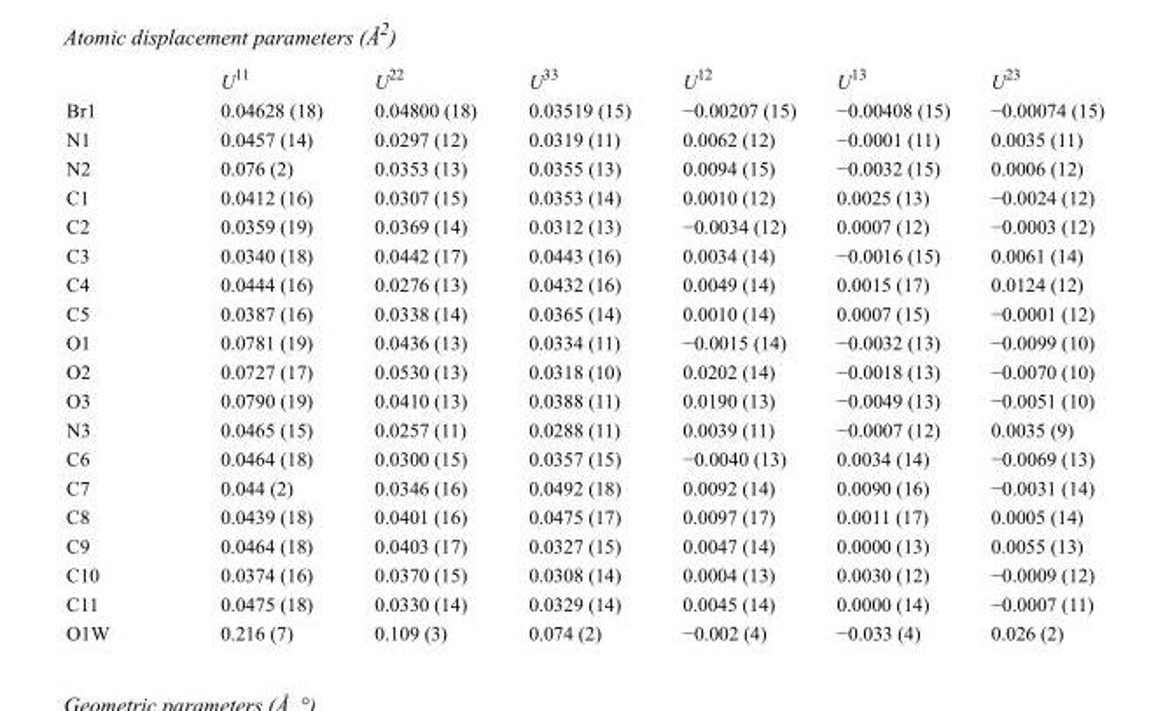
<table><thead><tr><td></td><td>U<sup>11</sup></td><td>U<sup>22</sup></td><td>U<sup>33</sup></td><td>U<sup>12</sup></td><td>U<sup>13</sup></td><td>U<sup>23</sup></td></tr></thead><tbody><tr><td>Br1</td><td>0.04628 (18)</td><td>0.04800 (18)</td><td>0.03519 (15)</td><td>−0.00207 (15)</td><td>−0.00408 (15)</td><td>−0.00074 (15)</td></tr><tr><td>N1</td><td>0.0457 (14)</td><td>0.0297 (12)</td><td>0.0319 (11)</td><td>0.0062 (12)</td><td>−0.0001 (11)</td><td>0.0035 (11)</td></tr><tr><td>N2</td><td>0.076 (2)</td><td>0.0353 (13)</td><td>0.0355 (13)</td><td>0.0094 (15)</td><td>−0.0032 (15)</td><td>0.0006 (12)</td></tr><tr><td>C1</td><td>0.0412 (16)</td><td>0.0307 (15)</td><td>0.0353 (14)</td><td>0.0010 (12)</td><td>0.0025 (13)</td><td>−0.0024 (12)</td></tr><tr><td>C2</td><td>0.0359 (19)</td><td>0.0369 (14)</td><td>0.0312 (13)</td><td>−0.0034 (12)</td><td>0.0007 (12)</td><td>−0.0003 (12)</td></tr><tr><td>C3</td><td>0.0340 (18)</td><td>0.0442 (17)</td><td>0.0443 (16)</td><td>0.0034 (14)</td><td>−0.0016 (15)</td><td>0.0061 (14)</td></tr><tr><td>C4</td><td>0.0444 (16)</td><td>0.0276 (13)</td><td>0.0432 (16)</td><td>0.0049 (14)</td><td>0.0015 (17)</td><td>0.0124 (12)</td></tr><tr><td>C5</td><td>0.0387 (16)</td><td>0.0338 (14)</td><td>0.0365 (14)</td><td>0.0010 (14)</td><td>0.0007 (15)</td><td>−0.0001 (12)</td></tr><tr><td>O1</td><td>0.0781 (19)</td><td>0.0436 (13)</td><td>0.0334 (11)</td><td>−0.0015 (14)</td><td>−0.0032 (13)</td><td>−0.0099 (10)</td></tr><tr><td>O2</td><td>0.0727 (17)</td><td>0.0530 (13)</td><td>0.0318 (10)</td><td>0.0202 (14)</td><td>−0.0018 (13)</td><td>−0.0070 (10)</td></tr><tr><td>O3</td><td>0.0790 (19)</td><td>0.0410 (13)</td><td>0.0388 (11)</td><td>0.0190 (13)</td><td>−0.0049 (13)</td><td>−0.0051 (10)</td></tr><tr><td>N3</td><td>0.0465 (15)</td><td>0.0257 (11)</td><td>0.0288 (11)</td><td>0.0039 (11)</td><td>−0.0007 (12)</td><td>0.0035 (9)</td></tr><tr><td>C6</td><td>0.0464 (18)</td><td>0.0300 (15)</td><td>0.0357 (15)</td><td>−0.0040 (13)</td><td>0.0034 (14)</td><td>−0.0069 (13)</td></tr><tr><td>C7</td><td>0.044 (2)</td><td>0.0346 (16)</td><td>0.0492 (18)</td><td>0.0092 (14)</td><td>0.0090 (16)</td><td>−0.0031 (14)</td></tr><tr><td>C8</td><td>0.0439 (18)</td><td>0.0401 (16)</td><td>0.0475 (17)</td><td>0.0097 (17)</td><td>0.0011 (17)</td><td>0.0005 (14)</td></tr><tr><td>C9</td><td>0.0464 (18)</td><td>0.0403 (17)</td><td>0.0327 (15)</td><td>0.0047 (14)</td><td>0.0000 (13)</td><td>0.0055 (13)</td></tr><tr><td>C10</td><td>0.0374 (16)</td><td>0.0370 (15)</td><td>0.0308 (14)</td><td>0.0004 (13)</td><td>0.0030 (12)</td><td>−0.0009 (12)</td></tr><tr><td>C11</td><td>0.0475 (18)</td><td>0.0330 (14)</td><td>0.0329 (14)</td><td>0.0045 (14)</td><td>0.0000 (14)</td><td>−0.0007 (11)</td></tr><tr><td>O1W</td><td>0.216 (7)</td><td>0.109 (3)</td><td>0.074 (2)</td><td>−0.002 (4)</td><td>−0.033 (4)</td><td>0.026 (2)</td></tr></tbody></table>